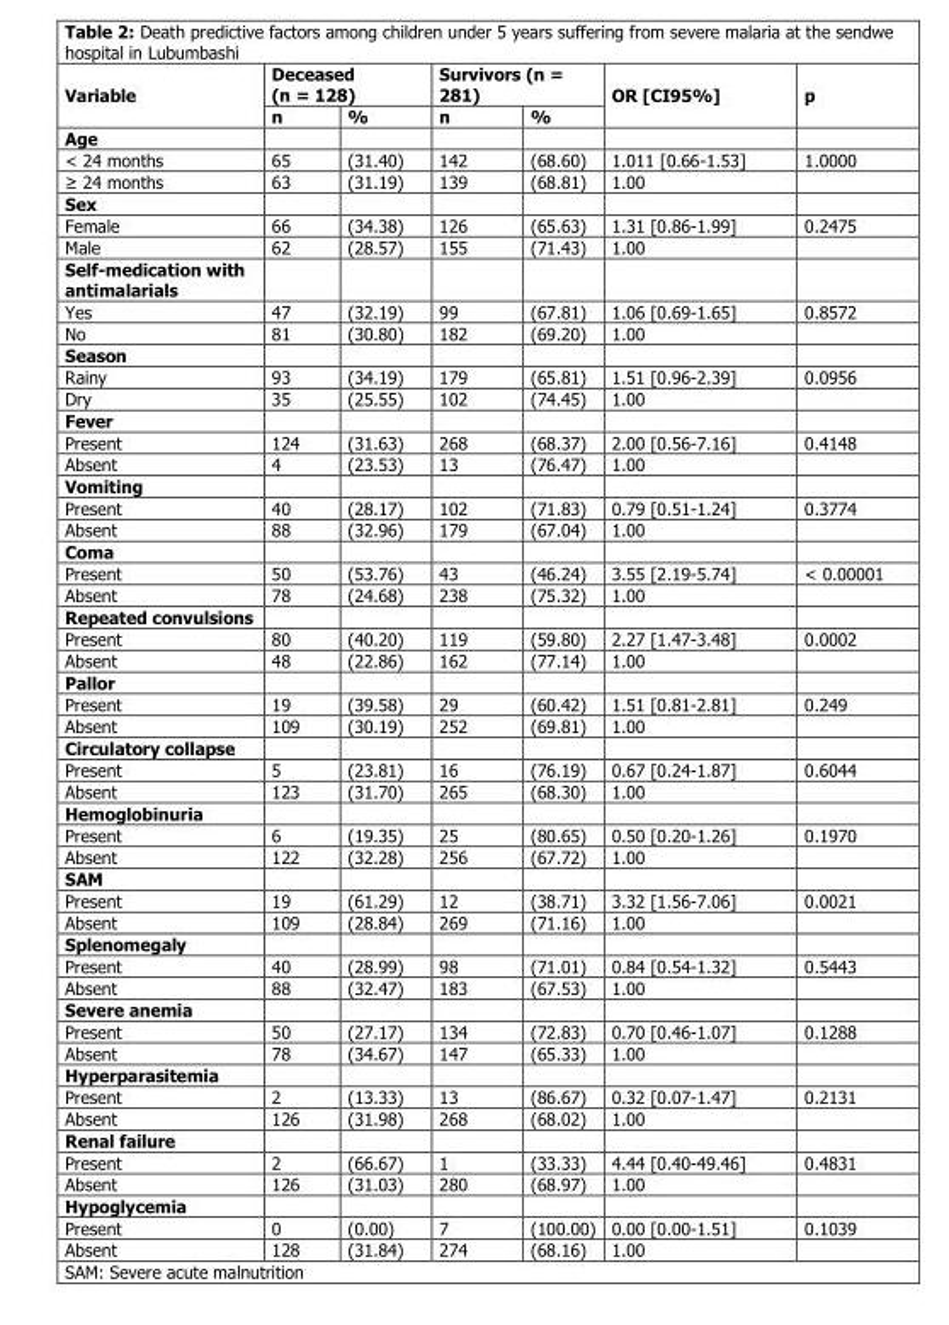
<table><thead><tr><td rowspan="2">Variable</td><td colspan="2">Deceased (n = 128)</td><td colspan="2">Survivors (n = 281)</td><td rowspan="2">OR [CI95%]</td><td rowspan="2">p</td></tr><tr><td>n</td><td>%</td><td>n</td><td>%</td></tr></thead><tbody><tr><td colspan="7">Age</td></tr><tr><td>&lt; 24 months</td><td>65</td><td>(31.40)</td><td>142</td><td>(68.60)</td><td>1.011 [0.66-1.53]</td><td>1.0000</td></tr><tr><td>≥ 24 months</td><td>63</td><td>(31.19)</td><td>139</td><td>(68.81)</td><td>1.00</td><td></td></tr><tr><td colspan="7">Sex</td></tr><tr><td>Female</td><td>66</td><td>(34.38)</td><td>126</td><td>(65.63)</td><td>1.31 [0.86-1.99]</td><td>0.2475</td></tr><tr><td>Male</td><td>62</td><td>(28.57)</td><td>155</td><td>(71.43)</td><td>1.00</td><td></td></tr><tr><td colspan="7">Self-medication with antimalarials</td></tr><tr><td>Yes</td><td>47</td><td>(32.19)</td><td>99</td><td>(67.81)</td><td>1.06 [0.69-1.65]</td><td>0.8572</td></tr><tr><td>No</td><td>81</td><td>(30.80)</td><td>182</td><td>(69.20)</td><td>1.00</td><td></td></tr><tr><td colspan="7">Season</td></tr><tr><td>Rainy</td><td>93</td><td>(34.19)</td><td>179</td><td>(65.81)</td><td>1.51 [0.96-2.39]</td><td>0.0956</td></tr><tr><td>Dry</td><td>35</td><td>(25.55)</td><td>102</td><td>(74.45)</td><td>1.00</td><td></td></tr><tr><td colspan="7">Fever</td></tr><tr><td>Present</td><td>124</td><td>(31.63)</td><td>268</td><td>(68.37)</td><td>2.00 [0.56-7.16]</td><td>0.4148</td></tr><tr><td>Absent</td><td>4</td><td>(23.53)</td><td>13</td><td>(76.47)</td><td>1.00</td><td></td></tr><tr><td colspan="7">Vomiting</td></tr><tr><td>Present</td><td>40</td><td>(28.17)</td><td>102</td><td>(71.83)</td><td>0.79 [0.51-1.24]</td><td>0.3774</td></tr><tr><td>Absent</td><td>88</td><td>(32.96)</td><td>179</td><td>(67.04)</td><td>1.00</td><td></td></tr><tr><td colspan="7">Coma</td></tr><tr><td>Present</td><td>50</td><td>(53.76)</td><td>43</td><td>(46.24)</td><td>3.55 [2.19-5.74]</td><td>&lt; 0.00001</td></tr><tr><td>Absent</td><td>78</td><td>(24.68)</td><td>238</td><td>(75.32)</td><td>1.00</td><td></td></tr><tr><td colspan="7">Repeated convulsions</td></tr><tr><td>Present</td><td>80</td><td>(40.20)</td><td>119</td><td>(59.80)</td><td>2.27 [1.47-3.48]</td><td>0.0002</td></tr><tr><td>Absent</td><td>48</td><td>(22.86)</td><td>162</td><td>(77.14)</td><td>1.00</td><td></td></tr><tr><td colspan="7">Pallor</td></tr><tr><td>Present</td><td>19</td><td>(39.58)</td><td>29</td><td>(60.42)</td><td>1.51 [0.81-2.81]</td><td>0.249</td></tr><tr><td>Absent</td><td>109</td><td>(30.19)</td><td>252</td><td>(69.81)</td><td>1.00</td><td></td></tr><tr><td colspan="7">Circulatory collapse</td></tr><tr><td>Present</td><td>5</td><td>(23.81)</td><td>16</td><td>(76.19)</td><td>0.67 [0.24-1.87]</td><td>0.6044</td></tr><tr><td>Absent</td><td>123</td><td>(31.70)</td><td>265</td><td>(68.30)</td><td>1.00</td><td></td></tr><tr><td colspan="7">Hemoglobinuria</td></tr><tr><td>Present</td><td>6</td><td>(19.35)</td><td>25</td><td>(80.65)</td><td>0.50 [0.20-1.26]</td><td>0.1970</td></tr><tr><td>Absent</td><td>122</td><td>(32.28)</td><td>256</td><td>(67.72)</td><td>1.00</td><td></td></tr><tr><td colspan="7">SAM</td></tr><tr><td>Present</td><td>19</td><td>(61.29)</td><td>12</td><td>(38.71)</td><td>3.32 [1.56-7.06]</td><td>0.0021</td></tr><tr><td>Absent</td><td>109</td><td>(28.84)</td><td>269</td><td>(71.16)</td><td>1.00</td><td></td></tr><tr><td colspan="7">Splenomegaly</td></tr><tr><td>Present</td><td>40</td><td>(28.99)</td><td>98</td><td>(71.01)</td><td>0.84 [0.54-1.32]</td><td>0.5443</td></tr><tr><td>Absent</td><td>88</td><td>(32.47)</td><td>183</td><td>(67.53)</td><td>1.00</td><td></td></tr><tr><td colspan="7">Severe anemia</td></tr><tr><td>Present</td><td>50</td><td>(27.17)</td><td>134</td><td>(72.83)</td><td>0.70 [0.46-1.07]</td><td>0.1288</td></tr><tr><td>Absent</td><td>78</td><td>(34.67)</td><td>147</td><td>(65.33)</td><td>1.00</td><td></td></tr><tr><td colspan="7">Hyperparasitemia</td></tr><tr><td>Present</td><td>2</td><td>(13.33)</td><td>13</td><td>(86.67)</td><td>0.32 [0.07-1.47]</td><td>0.2131</td></tr><tr><td>Absent</td><td>126</td><td>(31.98)</td><td>268</td><td>(68.02)</td><td>1.00</td><td></td></tr><tr><td colspan="7">Renal failure</td></tr><tr><td>Present</td><td>2</td><td>(66.67)</td><td>1</td><td>(33.33)</td><td>4.44 [0.40-49.46]</td><td>0.4831</td></tr><tr><td>Absent</td><td>126</td><td>(31.03)</td><td>280</td><td>(68.97)</td><td>1.00</td><td></td></tr><tr><td colspan="7">Hypoglycemia</td></tr><tr><td>Present</td><td>0</td><td>(0.00)</td><td>7</td><td>(100.00)</td><td>0.00 [0.00-1.51]</td><td>0.1039</td></tr><tr><td>Absent</td><td>128</td><td>(31.84)</td><td>274</td><td>(68.16)</td><td>1.00</td><td></td></tr></tbody></table>